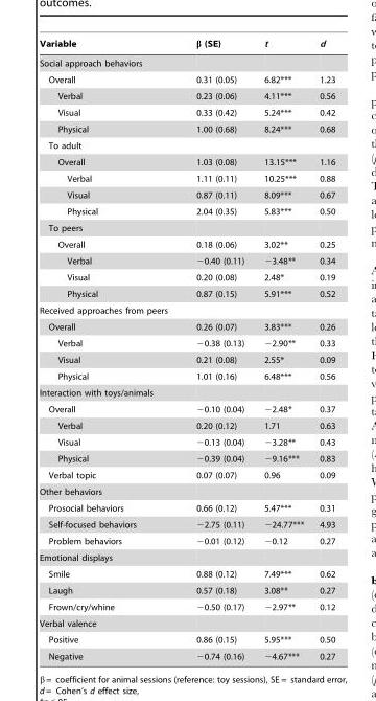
<table><thead><tr><td>Variable</td><td>β (SE)</td><td>t</td><td>d</td></tr></thead><tbody><tr><td colspan="4">Social approach behaviors</td></tr><tr><td>Overall</td><td>0.31 (0.05)</td><td>6.82***</td><td>1.23</td></tr><tr><td>Verbal</td><td>0.23 (0.06)</td><td>4.11***</td><td>0.56</td></tr><tr><td>Visual</td><td>0.33 (0.42)</td><td>5.24***</td><td>0.42</td></tr><tr><td>Physical</td><td>1.00 (0.68)</td><td>8.24***</td><td>0.68</td></tr><tr><td colspan="4">To adult</td></tr><tr><td>Overall</td><td>1.03 (0.08)</td><td>13.15***</td><td>1.16</td></tr><tr><td>Verbal</td><td>1.11 (0.11)</td><td>10.25***</td><td>0.88</td></tr><tr><td>Visual</td><td>0.87 (0.11)</td><td>8.09***</td><td>0.67</td></tr><tr><td>Physical</td><td>2.04 (0.35)</td><td>5.83***</td><td>0.50</td></tr><tr><td colspan="4">To peers</td></tr><tr><td>Overall</td><td>0.18 (0.06)</td><td>3.02**</td><td>0.25</td></tr><tr><td>Verbal</td><td>−0.40 (0.11)</td><td>−3.48**</td><td>0.34</td></tr><tr><td>Visual</td><td>0.20 (0.08)</td><td>2.48*</td><td>0.19</td></tr><tr><td>Physical</td><td>0.87 (0.15)</td><td>5.91***</td><td>0.52</td></tr><tr><td colspan="4">Received approaches from peers</td></tr><tr><td>Overall</td><td>0.26 (0.07)</td><td>3.83***</td><td>0.26</td></tr><tr><td>Verbal</td><td>−0.38 (0.13)</td><td>−2.90**</td><td>0.33</td></tr><tr><td>Visual</td><td>0.21 (0.08)</td><td>2.55*</td><td>0.09</td></tr><tr><td>Physical</td><td>1.01 (0.16)</td><td>6.48***</td><td>0.56</td></tr><tr><td colspan="4">Interaction with toys/animals</td></tr><tr><td>Overall</td><td>−0.10 (0.04)</td><td>−2.48*</td><td>0.37</td></tr><tr><td>Verbal</td><td>0.20 (0.12)</td><td>1.71</td><td>0.63</td></tr><tr><td>Visual</td><td>−0.13 (0.04)</td><td>−3.28**</td><td>0.43</td></tr><tr><td>Physical</td><td>−0.39 (0.04)</td><td>−9.16***</td><td>0.83</td></tr><tr><td>Verbal topic</td><td>0.07 (0.07)</td><td>0.96</td><td>0.09</td></tr><tr><td colspan="4">Other behaviors</td></tr><tr><td>Prosocial behaviors</td><td>0.66 (0.12)</td><td>5.47***</td><td>0.31</td></tr><tr><td>Self-focused behaviors</td><td>−2.75 (0.11)</td><td>−24.77***</td><td>4.93</td></tr><tr><td>Problem behaviors</td><td>−0.01 (0.12)</td><td>−0.12</td><td>0.27</td></tr><tr><td colspan="4">Emotional displays</td></tr><tr><td>Smile</td><td>0.88 (0.12)</td><td>7.49***</td><td>0.62</td></tr><tr><td>Laugh</td><td>0.57 (0.18)</td><td>3.08**</td><td>0.27</td></tr><tr><td>Frown/cry/whine</td><td>−0.50 (0.17)</td><td>−2.97**</td><td>0.12</td></tr><tr><td colspan="4">Verbal valence</td></tr><tr><td>Positive</td><td>0.86 (0.15)</td><td>5.95***</td><td>0.50</td></tr><tr><td>Negative</td><td>−0.74 (0.16)</td><td>−4.67***</td><td>0.27</td></tr></tbody></table>